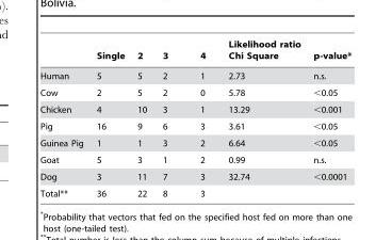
<table><thead><tr><td></td><td>Single</td><td>2</td><td>3</td><td>4</td><td>Likelihood ratio Chi Square</td><td>p-value*</td></tr></thead><tbody><tr><td>Human</td><td>5</td><td>5</td><td>2</td><td>1</td><td>2.73</td><td>n.s.</td></tr><tr><td>Cow</td><td>2</td><td>5</td><td>2</td><td>0</td><td>5.78</td><td>&lt;0.05</td></tr><tr><td>Chicken</td><td>4</td><td>10</td><td>3</td><td>1</td><td>13.29</td><td>&lt;0.001</td></tr><tr><td>Pig</td><td>16</td><td>9</td><td>6</td><td>3</td><td>3.61</td><td>&lt;0.05</td></tr><tr><td>Guinea Pig</td><td>1</td><td>1</td><td>3</td><td>2</td><td>6.64</td><td>&lt;0.05</td></tr><tr><td>Goat</td><td>5</td><td>3</td><td>1</td><td>2</td><td>0.99</td><td>n.s.</td></tr><tr><td>Dog</td><td>3</td><td>11</td><td>7</td><td>3</td><td>32.74</td><td>&lt;0.0001</td></tr><tr><td>Total**</td><td>36</td><td>22</td><td>8</td><td>3</td><td></td><td></td></tr></tbody></table>